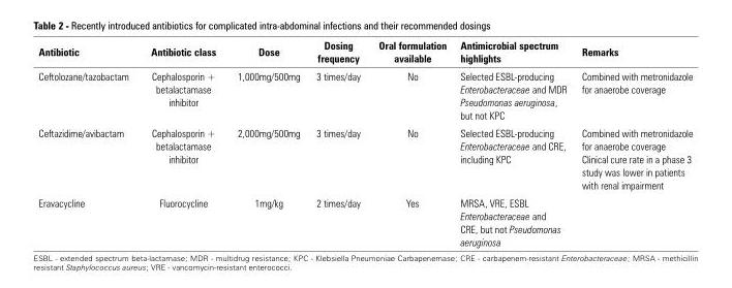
<table><thead><tr><td>Antibiotic</td><td>Antibiotic class</td><td>Dose</td><td>Dosing frequency</td><td>Oral formulation available</td><td>Antimicrobial spectrum highlights</td><td>Remarks</td></tr></thead><tbody><tr><td>Ceftolozane/tazobactam</td><td>Cephalosporin + betalactamase inhibitor</td><td>1,000mg/500mg</td><td>3 times/day</td><td>No</td><td>Selected ESBL-producing Enterobacteraceae and MDR Pseudomonas aeruginosa, but not KPC</td><td>Combined with metronidazole for anaerobe coverage</td></tr><tr><td>Ceftazidime/avibactam</td><td>Cephalosporin + betalactamase inhibitor</td><td>2,000mg/500mg</td><td>3 times/day</td><td>No</td><td>Selected ESBL-producing Enterobacteraceae and CRE, including KPC</td><td>Combined with metronidazole for anaerobe coverage Clinical cure rate in a phase 3 study was lower in patients with renal impairment</td></tr><tr><td>Eravacycline</td><td>Fluorocycline</td><td>1mg/kg</td><td>2 times/day</td><td>Yes</td><td>MRSA, VRE, ESBL Enterobacteraceae and CRE, but not Pseudomonas aeruginosa</td><td></td></tr></tbody></table>